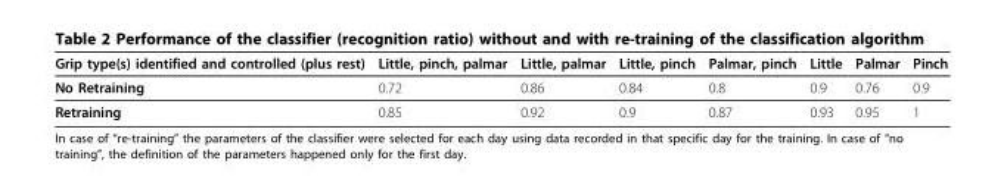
<table><thead><tr><td>Grip type(s) identified and controlled (plus rest)</td><td>Little, pinch, palmar</td><td>Little, palmar</td><td>Little, pinch</td><td>Palmar, pinch</td><td>Little</td><td>Palmar</td><td>Pinch</td></tr></thead><tbody><tr><td>No Retraining</td><td>0.72</td><td>0.86</td><td>0.84</td><td>0.8</td><td>0.9</td><td>0.76</td><td>0.9</td></tr><tr><td>Retraining</td><td>0.85</td><td>0.92</td><td>0.9</td><td>0.87</td><td>0.93</td><td>0.95</td><td>1</td></tr></tbody></table>